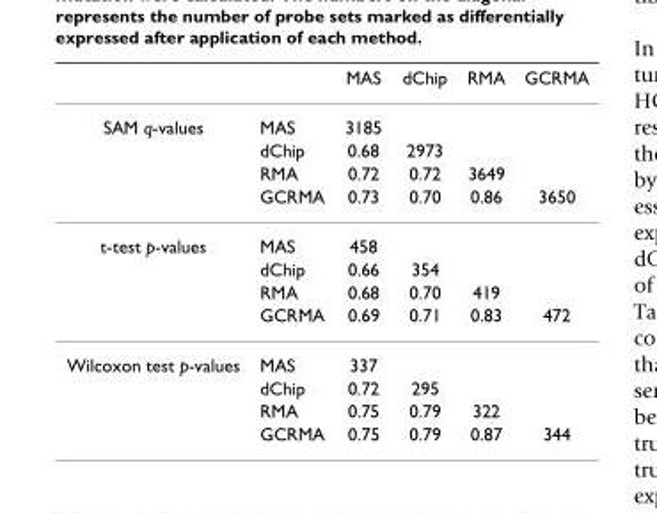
<table><thead><tr><td></td><td></td><td>MAS</td><td>dChip</td><td>RMA</td><td>GCRMA</td></tr></thead><tbody><tr><td rowspan="4">SAM q-values</td><td>MAS</td><td>3185</td><td></td><td></td><td></td></tr><tr><td>dChip</td><td>0.68</td><td>2973</td><td></td><td></td></tr><tr><td>RMA</td><td>0.72</td><td>0.72</td><td>3649</td><td></td></tr><tr><td>GCRMA</td><td>0.73</td><td>0.70</td><td>0.86</td><td>3650</td></tr><tr><td rowspan="4">t-test p-values</td><td>MAS</td><td>458</td><td></td><td></td><td></td></tr><tr><td>dChip</td><td>0.66</td><td>354</td><td></td><td></td></tr><tr><td>RMA</td><td>0.68</td><td>0.70</td><td>419</td><td></td></tr><tr><td>GCRMA</td><td>0.69</td><td>0.71</td><td>0.83</td><td>472</td></tr><tr><td rowspan="4">Wilcoxon test p-values</td><td>MAS</td><td>337</td><td></td><td></td><td></td></tr><tr><td>dChip</td><td>0.72</td><td>295</td><td></td><td></td></tr><tr><td>RMA</td><td>0.75</td><td>0.79</td><td>322</td><td></td></tr><tr><td>GCRMA</td><td>0.75</td><td>0.79</td><td>0.87</td><td>344</td></tr></tbody></table>